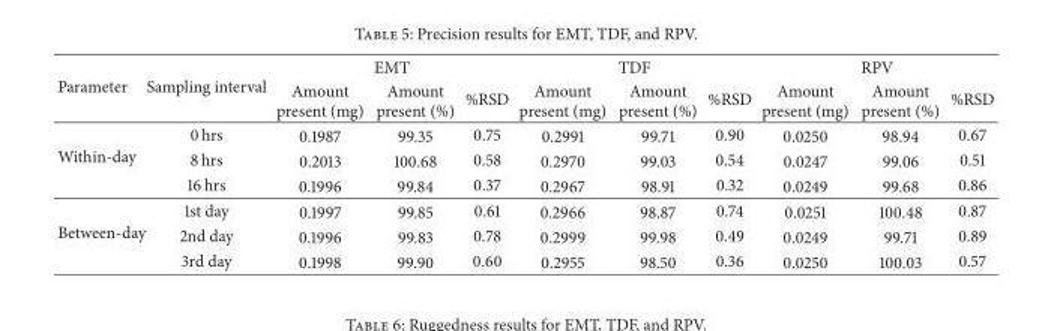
<table><thead><tr><td rowspan="2">Parameter</td><td rowspan="2">Sampling interval</td><td colspan="3">EMT</td><td colspan="3">TDF</td><td colspan="3">RPV</td></tr><tr><td>Amount present (mg)</td><td>Amount present (%)</td><td>%RSD</td><td>Amount present (mg)</td><td>Amount present (%)</td><td>%RSD</td><td>Amount present (mg)</td><td>Amount present (%)</td><td>%RSD</td></tr></thead><tbody><tr><td rowspan="3">Within-day</td><td>0 hrs</td><td>0.1987</td><td>99.35</td><td>0.75</td><td>0.2991</td><td>99.71</td><td>0.90</td><td>0.0250</td><td>98.94</td><td>0.67</td></tr><tr><td>8 hrs</td><td>0.2013</td><td>100.68</td><td>0.58</td><td>0.2970</td><td>99.03</td><td>0.54</td><td>0.0247</td><td>99.06</td><td>0.51</td></tr><tr><td>16 hrs</td><td>0.1996</td><td>99.84</td><td>0.37</td><td>0.2967</td><td>98.91</td><td>0.32</td><td>0.0249</td><td>99.68</td><td>0.86</td></tr><tr><td rowspan="3">Between-day</td><td>1st day</td><td>0.1997</td><td>99.85</td><td>0.61</td><td>0.2966</td><td>98.87</td><td>0.74</td><td>0.0251</td><td>100.48</td><td>0.87</td></tr><tr><td>2nd day</td><td>0.1996</td><td>99.83</td><td>0.78</td><td>0.2999</td><td>99.98</td><td>0.49</td><td>0.0249</td><td>99.71</td><td>0.89</td></tr><tr><td>3rd day</td><td>0.1998</td><td>99.90</td><td>0.60</td><td>0.2955</td><td>98.50</td><td>0.36</td><td>0.0250</td><td>100.03</td><td>0.57</td></tr></tbody></table>